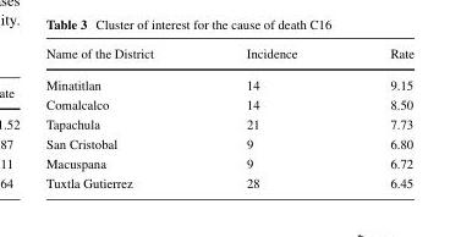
<table><thead><tr><td>Name of the District</td><td>Incidence</td><td>Rate</td></tr></thead><tbody><tr><td>Minatitlan</td><td>14</td><td>9.15</td></tr><tr><td>Comalcalco</td><td>14</td><td>8.50</td></tr><tr><td>Tapachula</td><td>21</td><td>7.73</td></tr><tr><td>San Cristobal</td><td>9</td><td>6.80</td></tr><tr><td>Macuspana</td><td>9</td><td>6.72</td></tr><tr><td>Tuxtla Gutierrez</td><td>28</td><td>6.45</td></tr></tbody></table>